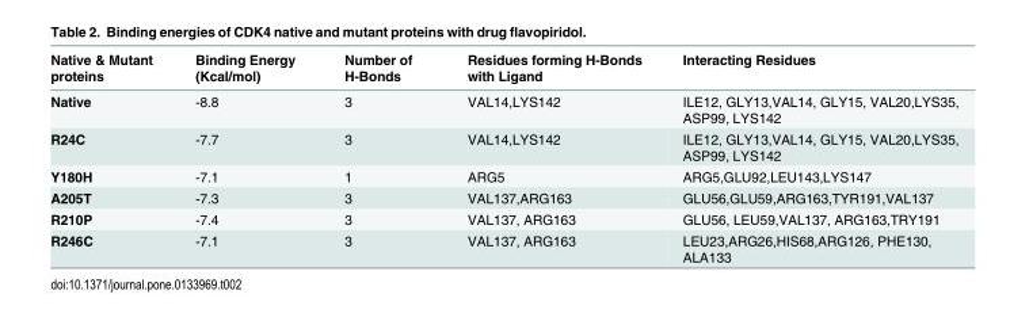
<table><thead><tr><td>Native &amp; Mutant proteins</td><td>Binding Energy (Kcal/mol)</td><td>Number of H-Bonds</td><td>Residues forming H-Bonds with Ligand</td><td>Interacting Residues</td></tr></thead><tbody><tr><td>Native</td><td>-8.8</td><td>3</td><td>VAL14,LYS142</td><td>ILE12, GLY13,VAL14, GLY15, VAL20,LYS35, ASP99, LYS142</td></tr><tr><td>R24C</td><td>-7.7</td><td>3</td><td>VAL14,LYS142</td><td>ILE12, GLY13,VAL14, GLY15, VAL20,LYS35, ASP99, LYS142</td></tr><tr><td>Y180H</td><td>-7.1</td><td>1</td><td>ARG5</td><td>ARG5,GLU92,LEU143,LYS147</td></tr><tr><td>A205T</td><td>-7.3</td><td>3</td><td>VAL137,ARG163</td><td>GLU56,GLU59,ARG163,TYR191,VAL137</td></tr><tr><td>R210P</td><td>-7.4</td><td>3</td><td>VAL137, ARG163</td><td>GLU56, LEU59,VAL137, ARG163,TRY191</td></tr><tr><td>R246C</td><td>-7.1</td><td>3</td><td>VAL137, ARG163</td><td>LEU23,ARG26,HIS68,ARG126, PHE130, ALA133</td></tr></tbody></table>